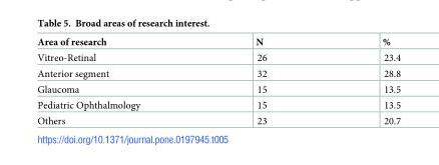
<table><thead><tr><td>Area of research</td><td>N</td><td>%</td></tr></thead><tbody><tr><td>Vitreo-Retinal</td><td>26</td><td>23.4</td></tr><tr><td>Anterior segment</td><td>32</td><td>28.8</td></tr><tr><td>Glaucoma</td><td>15</td><td>13.5</td></tr><tr><td>Pediatric Ophthalmology</td><td>15</td><td>13.5</td></tr><tr><td>Others</td><td>23</td><td>20.7</td></tr></tbody></table>